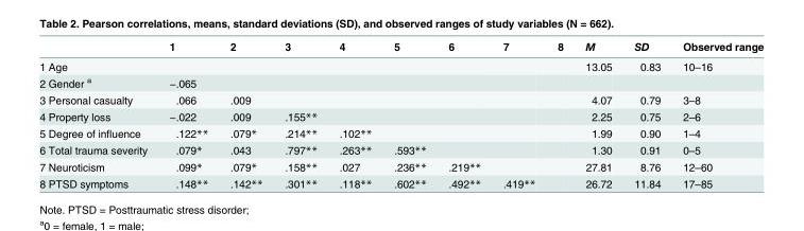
<table><thead><tr><td></td><td>1</td><td>2</td><td>3</td><td>4</td><td>5</td><td>6</td><td>7</td><td>8</td><td>M</td><td>SD</td><td>Observed range</td></tr></thead><tbody><tr><td>1 Age</td><td></td><td></td><td></td><td></td><td></td><td></td><td></td><td></td><td>13.05</td><td>0.83</td><td>10–16</td></tr><tr><td>2 Gender <sup>a</sup></td><td>−.065</td><td></td><td></td><td></td><td></td><td></td><td></td><td></td><td></td><td></td><td></td></tr><tr><td>3 Personal casualty</td><td>.066</td><td>.009</td><td></td><td></td><td></td><td></td><td></td><td></td><td>4.07</td><td>0.79</td><td>3–8</td></tr><tr><td>4 Property loss</td><td>−.022</td><td>.009</td><td>.155**</td><td></td><td></td><td></td><td></td><td></td><td>2.25</td><td>0.75</td><td>2–6</td></tr><tr><td>5 Degree of influence</td><td>.122**</td><td>.079*</td><td>.214**</td><td>.102**</td><td></td><td></td><td></td><td></td><td>1.99</td><td>0.90</td><td>1–4</td></tr><tr><td>6 Total trauma severity</td><td>.079*</td><td>.043</td><td>.797**</td><td>.263**</td><td>.593**</td><td></td><td></td><td></td><td>1.30</td><td>0.91</td><td>0–5</td></tr><tr><td>7 Neuroticism</td><td>.099*</td><td>.079*</td><td>.158**</td><td>.027</td><td>.236**</td><td>.219**</td><td></td><td></td><td>27.81</td><td>8.76</td><td>12–60</td></tr><tr><td>8 PTSD symptoms</td><td>.148**</td><td>.142**</td><td>.301**</td><td>.118**</td><td>.602**</td><td>.492**</td><td>.419**</td><td></td><td>26.72</td><td>11.84</td><td>17–85</td></tr></tbody></table>